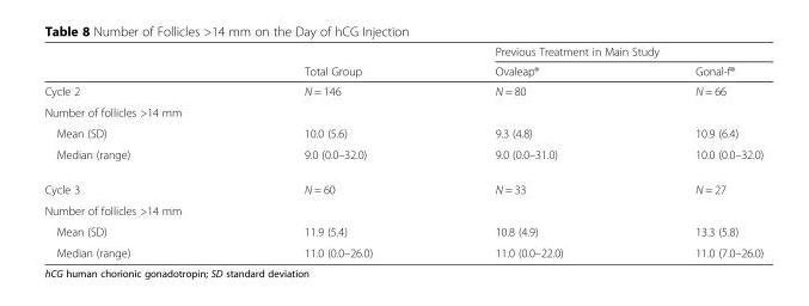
<table><thead><tr><td rowspan="2"></td><td rowspan="2">Total Group</td><td colspan="2">Previous Treatment in Main Study</td></tr><tr><td>Ovaleap®</td><td>Gonal-f®</td></tr></thead><tbody><tr><td>Cycle 2</td><td>N = 146</td><td>N = 80</td><td>N = 66</td></tr><tr><td colspan="4">Number of follicles &gt;14 mm</td></tr><tr><td>Mean (SD)</td><td>10.0 (5.6)</td><td>9.3 (4.8)</td><td>10.9 (6.4)</td></tr><tr><td>Median (range)</td><td>9.0 (0.0–32.0)</td><td>9.0 (0.0–31.0)</td><td>10.0 (0.0–32.0)</td></tr><tr><td>Cycle 3</td><td>N = 60</td><td>N = 33</td><td>N = 27</td></tr><tr><td colspan="4">Number of follicles &gt;14 mm</td></tr><tr><td>Mean (SD)</td><td>11.9 (5.4)</td><td>10.8 (4.9)</td><td>13.3 (5.8)</td></tr><tr><td>Median (range)</td><td>11.0 (0.0–26.0)</td><td>11.0 (0.0–22.0)</td><td>11.0 (7.0–26.0)</td></tr></tbody></table>